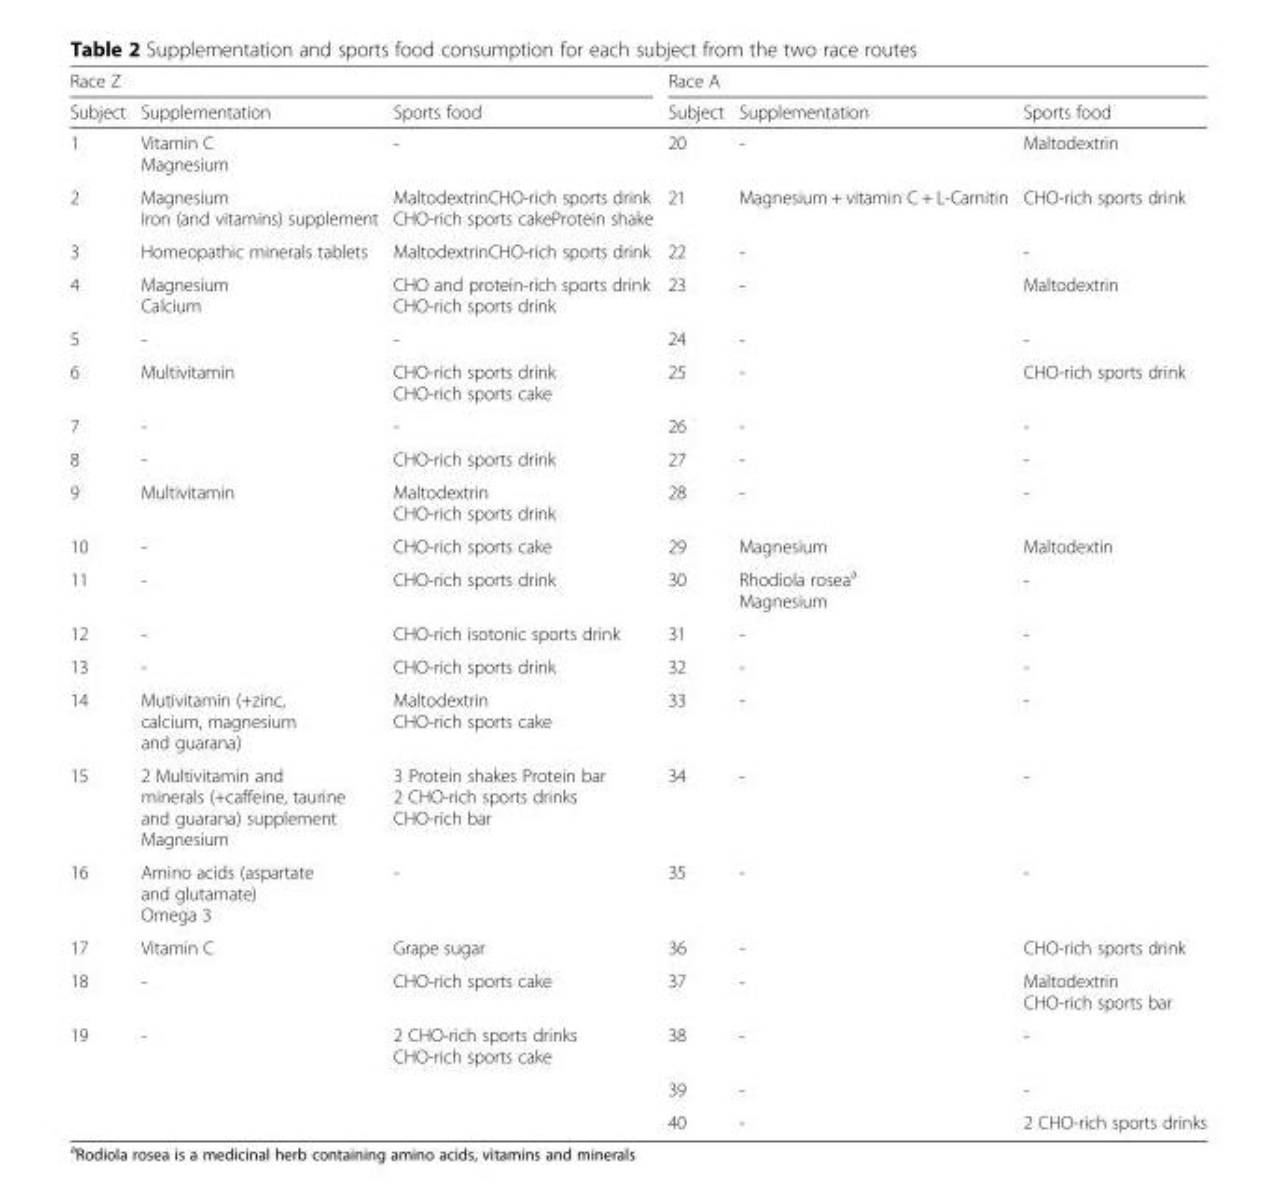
<table><thead><tr><td colspan="3">Race Z</td><td colspan="3">Race A</td></tr><tr><td>Subject</td><td>Supplementation</td><td>Sports food</td><td>Subject</td><td>Supplementation</td><td>Sports food</td></tr></thead><tbody><tr><td>1</td><td>Vitamin C Magnesium</td><td>-</td><td>20</td><td>-</td><td>Maltodextrin</td></tr><tr><td>2</td><td>Magnesium Iron (and vitamins) supplement</td><td>MaltodextrinCHO-rich sports drink CHO-rich sports cakeProtein shake</td><td>21</td><td>Magnesium + vitamin C + L-Carnitin</td><td>CHO-rich sports drink</td></tr><tr><td>3</td><td>Homeopathic minerals tablets</td><td>MaltodextrinCHO-rich sports drink</td><td>22</td><td>-</td><td>-</td></tr><tr><td>4</td><td>Magnesium Calcium</td><td>CHO and protein-rich sports drink CHO-rich sports drink</td><td>23</td><td>-</td><td>Maltodextrin</td></tr><tr><td>5</td><td>-</td><td>-</td><td>24</td><td>-</td><td>-</td></tr><tr><td>6</td><td>Multivitamin</td><td>CHO-rich sports drink CHO-rich sports cake</td><td>25</td><td>-</td><td>CHO-rich sports drink</td></tr><tr><td>7</td><td>-</td><td>-</td><td>26</td><td>-</td><td>-</td></tr><tr><td>8</td><td>-</td><td>CHO-rich sports drink</td><td>27</td><td>-</td><td>-</td></tr><tr><td>9</td><td>Multivitamin</td><td>Maltodextrin CHO-rich sports drink</td><td>28</td><td>-</td><td>-</td></tr><tr><td>10</td><td>-</td><td>CHO-rich sports cake</td><td>29</td><td>Magnesium</td><td>Maltodextin</td></tr><tr><td>11</td><td>-</td><td>CHO-rich sports drink</td><td>30</td><td>Rhodiola rosea<sup>a</sup> Magnesium</td><td>-</td></tr><tr><td>12</td><td>-</td><td>CHO-rich isotonic sports drink</td><td>31</td><td>-</td><td>-</td></tr><tr><td>13</td><td>-</td><td>CHO-rich sports drink</td><td>32</td><td>-</td><td>-</td></tr><tr><td>14</td><td>Mutivitamin (+zinc, calcium, magnesium and guarana)</td><td>Maltodextrin CHO-rich sports cake</td><td>33</td><td>-</td><td>-</td></tr><tr><td>15</td><td>2 Multivitamin and minerals (+caffeine, taurine and guarana) supplement Magnesium</td><td>3 Protein shakes Protein bar 2 CHO-rich sports drinks CHO-rich bar</td><td>34</td><td>-</td><td>-</td></tr><tr><td>16</td><td>Amino acids (aspartate and glutamate) Omega 3</td><td>-</td><td>35</td><td>-</td><td>-</td></tr><tr><td>17</td><td>Vitamin C</td><td>Grape sugar</td><td>36</td><td>-</td><td>CHO-rich sports drink</td></tr><tr><td>18</td><td>-</td><td>CHO-rich sports cake</td><td>37</td><td>-</td><td>Maltodextrin CHO-rich sports bar</td></tr><tr><td>19</td><td>-</td><td>2 CHO-rich sports drinks CHO-rich sports cake</td><td>38</td><td>-</td><td>-</td></tr><tr><td rowspan="2" colspan="3"></td><td>39</td><td>-</td><td>-</td></tr><tr><td>40</td><td>-</td><td>2 CHO-rich sports drinks</td></tr></tbody></table>